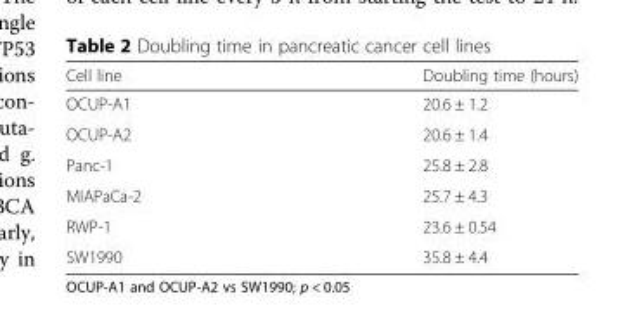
<table><thead><tr><td>Cell line</td><td>Doubling time (hours)</td></tr></thead><tbody><tr><td>OCUP-A1</td><td>20.6 ± 1.2</td></tr><tr><td>OCUP-A2</td><td>20.6 ± 1.4</td></tr><tr><td>Panc-1</td><td>25.8 ± 2.8</td></tr><tr><td>MIAPaCa-2</td><td>25.7 ± 4.3</td></tr><tr><td>RWP-1</td><td>23.6 ± 0.54</td></tr><tr><td>SW1990</td><td>35.8 ± 4.4</td></tr></tbody></table>